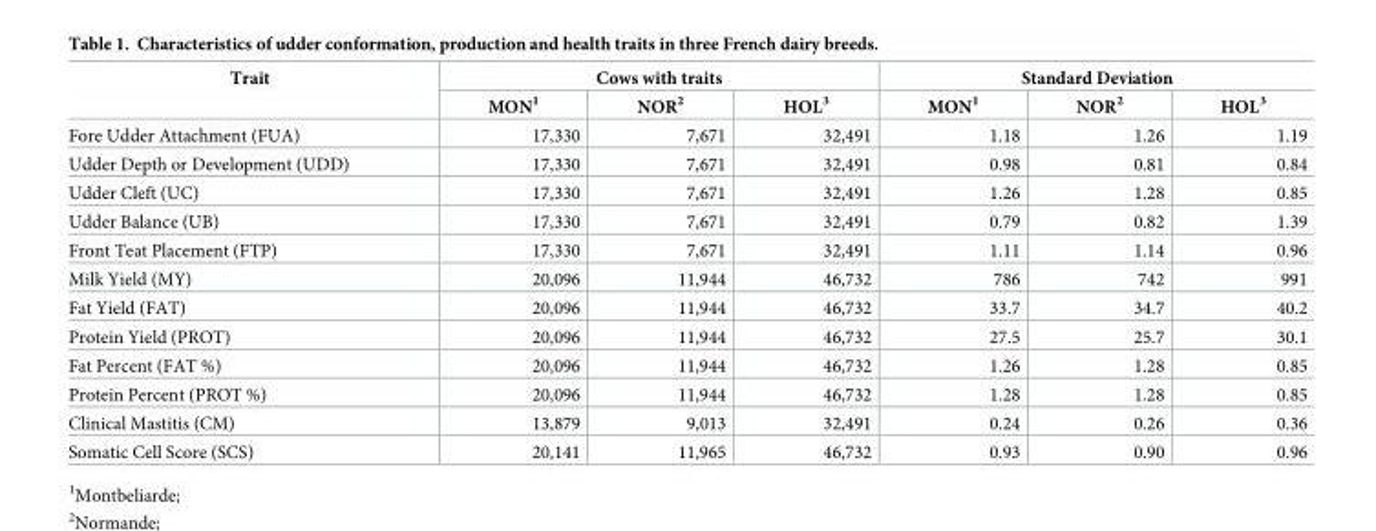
<table><thead><tr><td rowspan="2">Trait</td><td colspan="3">Cows with traits</td><td colspan="3">Standard Deviation</td></tr><tr><td>MON<sup>1</sup></td><td>NOR<sup>2</sup></td><td>HOL<sup>3</sup></td><td>MON<sup>1</sup></td><td>NOR<sup>2</sup></td><td>HOL<sup>3</sup></td></tr></thead><tbody><tr><td>Fore Udder Attachment (FUA)</td><td>17,330</td><td>7,671</td><td>32,491</td><td>1.18</td><td>1.26</td><td>1.19</td></tr><tr><td>Udder Depth or Development (UDD)</td><td>17,330</td><td>7,671</td><td>32,491</td><td>0.98</td><td>0.81</td><td>0.84</td></tr><tr><td>Udder Cleft (UC)</td><td>17,330</td><td>7,671</td><td>32,491</td><td>1.26</td><td>1.28</td><td>0.85</td></tr><tr><td>Udder Balance (UB)</td><td>17,330</td><td>7,671</td><td>32,491</td><td>0.79</td><td>0.82</td><td>1.39</td></tr><tr><td>Front Teat Placement (FTP)</td><td>17,330</td><td>7,671</td><td>32,491</td><td>1.11</td><td>1.14</td><td>0.96</td></tr><tr><td>Milk Yield (MY)</td><td>20,096</td><td>11,944</td><td>46,732</td><td>786</td><td>742</td><td>991</td></tr><tr><td>Fat Yield (FAT)</td><td>20,096</td><td>11,944</td><td>46,732</td><td>33.7</td><td>34.7</td><td>40.2</td></tr><tr><td>Protein Yield (PROT)</td><td>20,096</td><td>11,944</td><td>46,732</td><td>27.5</td><td>25.7</td><td>30.1</td></tr><tr><td>Fat Percent (FAT %)</td><td>20,096</td><td>11,944</td><td>46,732</td><td>1.26</td><td>1.28</td><td>0.85</td></tr><tr><td>Protein Percent (PROT %)</td><td>20,096</td><td>11,944</td><td>46,732</td><td>1.28</td><td>1.28</td><td>0.85</td></tr><tr><td>Clinical Mastitis (CM)</td><td>13,879</td><td>9,013</td><td>32,491</td><td>0.24</td><td>0.26</td><td>0.36</td></tr><tr><td>Somatic Cell Score (SCS)</td><td>20,141</td><td>11,965</td><td>46,732</td><td>0.93</td><td>0.90</td><td>0.96</td></tr></tbody></table>